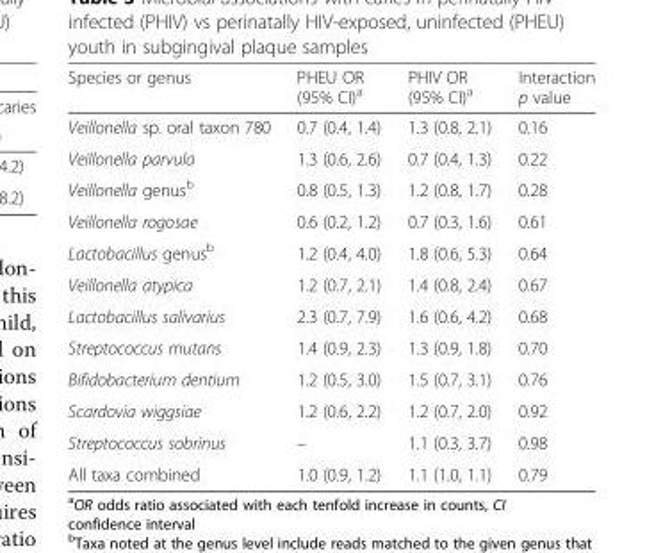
<table><thead><tr><td>Species or genus</td><td>PHEU OR (95% CI)<sup>a</sup></td><td>PHIV OR (95% CI)<sup>a</sup></td><td>Interaction p value</td></tr></thead><tbody><tr><td>Veillonella sp. oral taxon 780</td><td>0.7 (0.4, 1.4)</td><td>1.3 (0.8, 2.1)</td><td>0.16</td></tr><tr><td>Veillonella parvula</td><td>1.3 (0.6, 2.6)</td><td>0.7 (0.4, 1.3)</td><td>0.22</td></tr><tr><td>Veillonella genus<sup>b</sup></td><td>0.8 (0.5, 1.3)</td><td>1.2 (0.8, 1.7)</td><td>0.28</td></tr><tr><td>Veillonella rogosae</td><td>0.6 (0.2, 1.2)</td><td>0.7 (0.3, 1.6)</td><td>0.61</td></tr><tr><td>Lactobacillus genus<sup>b</sup></td><td>1.2 (0.4, 4.0)</td><td>1.8 (0.6, 5.3)</td><td>0.64</td></tr><tr><td>Veillonella atypica</td><td>1.2 (0.7, 2.1)</td><td>1.4 (0.8, 2.4)</td><td>0.67</td></tr><tr><td>Lactobacillus salivarius</td><td>2.3 (0.7, 7.9)</td><td>1.6 (0.6, 4.2)</td><td>0.68</td></tr><tr><td>Streptococcus mutans</td><td>1.4 (0.9, 2.3)</td><td>1.3 (0.9, 1.8)</td><td>0.70</td></tr><tr><td>Bifidobacterium dentium</td><td>1.2 (0.5, 3.0)</td><td>1.5 (0.7, 3.1)</td><td>0.76</td></tr><tr><td>Scardovia wiggsiae</td><td>1.2 (0.6, 2.2)</td><td>1.2 (0.7, 2.0)</td><td>0.92</td></tr><tr><td>Streptococcus sobrinus</td><td>–</td><td>1.1 (0.3, 3.7)</td><td>0.98</td></tr><tr><td>All taxa combined</td><td>1.0 (0.9, 1.2)</td><td>1.1 (1.0, 1.1)</td><td>0.79</td></tr></tbody></table>